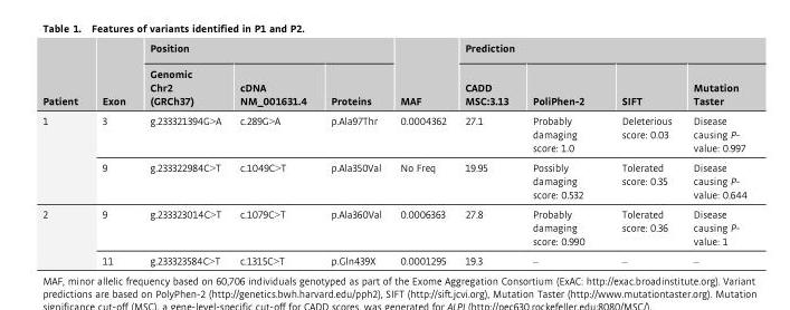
<table><thead><tr><td rowspan="2">Patient</td><td rowspan="2">Exon</td><td colspan="3">Position</td><td rowspan="2">MAF</td><td colspan="4">Prediction</td></tr><tr><td>Genomic Chr2 (GRCh37)</td><td>cDNA NM_001631.4</td><td>Proteins</td><td>CADD MSC:3.13</td><td>PoliPhen-2</td><td>SIFT</td><td>Mutation Taster</td></tr></thead><tbody><tr><td rowspan="2">1</td><td>3</td><td>g.233321394G&gt;A</td><td>c.289G&gt;A</td><td>p.Ala97Thr</td><td>0.0004362</td><td>27.1</td><td>Probably damaging score: 1.0</td><td>Deleterious score: 0.03</td><td>Disease causing P- value: 0.997</td></tr><tr><td>9</td><td>g.233322984C&gt;T</td><td>c.1049C&gt;T</td><td>p.Ala350Val</td><td>No Freq</td><td>19.95</td><td>Possibly damaging score: 0.532</td><td>Tolerated score: 0.35</td><td>Disease causing P- value: 0.644</td></tr><tr><td rowspan="2">2</td><td>9</td><td>g.233323014C&gt;T</td><td>c.1079C&gt;T</td><td>p.Ala360Val</td><td>0.0006363</td><td>27.8</td><td>Probably damaging score: 0.990</td><td>Tolerated score: 0.36</td><td>Disease causing P- value: 1</td></tr><tr><td>11</td><td>g.233323584C&gt;T</td><td>c.1315C&gt;T</td><td>p.Gln439X</td><td>0.0001295</td><td>19.3</td><td>–</td><td>–</td><td>–</td></tr></tbody></table>